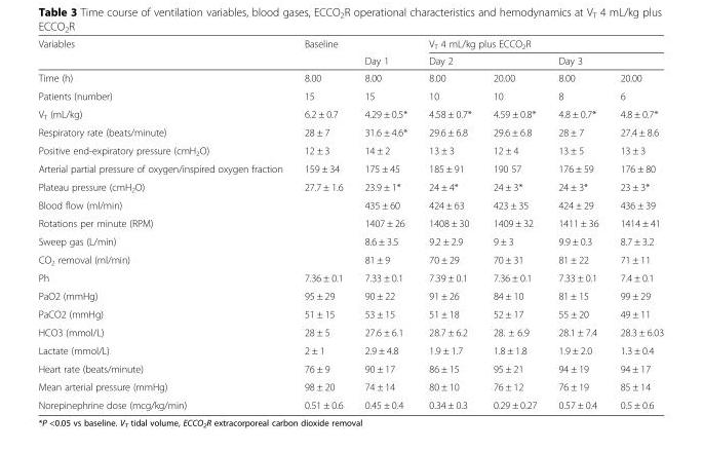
<table><thead><tr><td rowspan="3">Variables Time (h)</td><td rowspan="3">Baseline 8.00</td><td rowspan="3">Day 1 8.00</td><td colspan="4">V<sub>T</sub> 4 mL/kg plus ECCO<sub>2</sub>R</td></tr><tr><td colspan="2">Day 2</td><td colspan="2">Day 3</td></tr><tr><td>8.00</td><td>20.00</td><td>8.00</td><td>20.00</td></tr></thead><tbody><tr><td>Patients (number)</td><td>15</td><td>15</td><td>10</td><td>10</td><td>8</td><td>6</td></tr><tr><td>V<sub>T</sub> (mL/kg)</td><td>6.2 ± 0.7</td><td>4.29 ± 0.5*</td><td>4.58 ± 0.7*</td><td>4.59 ± 0.8*</td><td>4.8 ± 0.7*</td><td>4.8 ± 0.7*</td></tr><tr><td>Respiratory rate (beats/minute)</td><td>28 ± 7</td><td>31.6 ± 4.6*</td><td>29.6 ± 6.8</td><td>29.6 ± 6.8</td><td>28 ± 7</td><td>27.4 ± 8.6</td></tr><tr><td>Positive end-expiratory pressure (cmH<sub>2</sub>O)</td><td>12 ± 3</td><td>14 ± 2</td><td>13 ± 3</td><td>12 ± 4</td><td>13 ± 5</td><td>13 ± 3</td></tr><tr><td>Arterial partial pressure of oxygen/inspired oxygen fraction</td><td>159 ± 34</td><td>175 ± 45</td><td>185 ± 91</td><td>190 57</td><td>176 ± 59</td><td>176 ± 80</td></tr><tr><td>Plateau pressure (cmH<sub>2</sub>O)</td><td>27.7 ± 1.6</td><td>23.9 ± 1*</td><td>24 ± 4*</td><td>24 ± 3*</td><td>24 ± 3*</td><td>23 ± 3*</td></tr><tr><td>Blood flow (ml/min)</td><td></td><td>435 ± 60</td><td>424 ± 63</td><td>423 ± 35</td><td>424 ± 29</td><td>436 ± 39</td></tr><tr><td>Rotations per minute (RPM)</td><td></td><td>1407 ± 26</td><td>1408 ± 30</td><td>1409 ± 32</td><td>1411 ± 36</td><td>1414 ± 41</td></tr><tr><td>Sweep gas (L/min)</td><td></td><td>8.6 ± 3.5</td><td>9.2 ± 2.9</td><td>9 ± 3</td><td>9.9 ± 0.3</td><td>8.7 ± 3.2</td></tr><tr><td>CO<sub>2</sub> removal (ml/min)</td><td></td><td>81 ± 9</td><td>70 ± 29</td><td>70 ± 31</td><td>81 ± 22</td><td>71 ± 11</td></tr><tr><td>Ph</td><td>7.36 ± 0.1</td><td>7.33 ± 0.1</td><td>7.39 ± 0.1</td><td>7.36 ± 0.1</td><td>7.33 ± 0.1</td><td>7.4 ± 0.1</td></tr><tr><td>PaO2 (mmHg)</td><td>95 ± 29</td><td>90 ± 22</td><td>91 ± 26</td><td>84 ± 10</td><td>81 ± 15</td><td>99 ± 29</td></tr><tr><td>PaCO2 (mmHg)</td><td>51 ± 15</td><td>53 ± 15</td><td>51 ± 18</td><td>52 ± 17</td><td>55 ± 20</td><td>49 ± 11</td></tr><tr><td>HCO3 (mmol/L)</td><td>28 ± 5</td><td>27.6 ± 6.1</td><td>28.7 ± 6.2</td><td>28. ± 6.9</td><td>28.1 ± 7.4</td><td>28.3 ± 6.03</td></tr><tr><td>Lactate (mmol/L)</td><td>2 ± 1</td><td>2.9 ± 4.8</td><td>1.9 ± 1.7</td><td>1.8 ± 1.8</td><td>1.9 ± 2.0</td><td>1.3 ± 0.4</td></tr><tr><td>Heart rate (beats/minute)</td><td>76 ± 9</td><td>90 ± 17</td><td>86 ± 15</td><td>95 ± 21</td><td>94 ± 19</td><td>94 ± 17</td></tr><tr><td>Mean arterial pressure (mmHg)</td><td>98 ± 20</td><td>74 ± 14</td><td>80 ± 10</td><td>76 ± 12</td><td>76 ± 19</td><td>85 ± 14</td></tr><tr><td>Norepinephrine dose (mcg/kg/min)</td><td>0.51 ± 0.6</td><td>0.45 ± 0.4</td><td>0.34 ± 0.3</td><td>0.29 ± 0.27</td><td>0.57 ± 0.4</td><td>0.5 ± 0.6</td></tr></tbody></table>